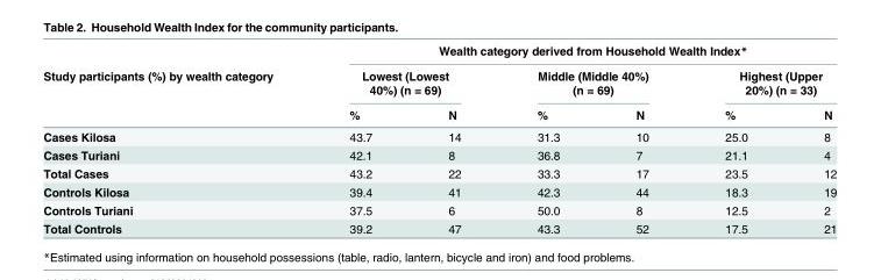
<table><thead><tr><td rowspan="3">Study participants (%) by wealth category</td><td colspan="6">Wealth category derived from Household Wealth Index*</td></tr><tr><td colspan="2">Lowest (Lowest 40%) (n = 69)</td><td colspan="2">Middle (Middle 40%) (n = 69)</td><td colspan="2">Highest (Upper 20%) (n = 33)</td></tr><tr><td>%</td><td>N</td><td>%</td><td>N</td><td>%</td><td>N</td></tr></thead><tbody><tr><td>Cases Kilosa</td><td>43.7</td><td>14</td><td>31.3</td><td>10</td><td>25.0</td><td>8</td></tr><tr><td>Cases Turiani</td><td>42.1</td><td>8</td><td>36.8</td><td>7</td><td>21.1</td><td>4</td></tr><tr><td>Total Cases</td><td>43.2</td><td>22</td><td>33.3</td><td>17</td><td>23.5</td><td>12</td></tr><tr><td>Controls Kilosa</td><td>39.4</td><td>41</td><td>42.3</td><td>44</td><td>18.3</td><td>19</td></tr><tr><td>Controls Turiani</td><td>37.5</td><td>6</td><td>50.0</td><td>8</td><td>12.5</td><td>2</td></tr><tr><td>Total Controls</td><td>39.2</td><td>47</td><td>43.3</td><td>52</td><td>17.5</td><td>21</td></tr></tbody></table>